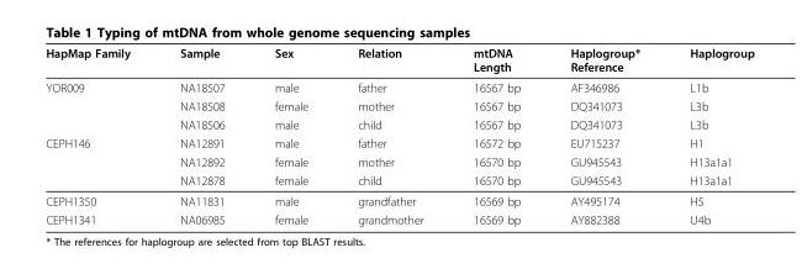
<table><thead><tr><td>HapMap Family</td><td>Sample</td><td>Sex</td><td>Relation</td><td>mtDNA Length</td><td>Haplogroup* Reference</td><td>Haplogroup</td></tr></thead><tbody><tr><td rowspan="3">YOR009</td><td>NA18507</td><td>male</td><td>father</td><td>16567 bp</td><td>AF346986</td><td>L1b</td></tr><tr><td>NA18508</td><td>female</td><td>mother</td><td>16567 bp</td><td>DQ341073</td><td>L3b</td></tr><tr><td>NA18506</td><td>male</td><td>child</td><td>16567 bp</td><td>DQ341073</td><td>L3b</td></tr><tr><td rowspan="3">CEPH146</td><td>NA12891</td><td>male</td><td>father</td><td>16572 bp</td><td>EU715237</td><td>H1</td></tr><tr><td>NA12892</td><td>female</td><td>mother</td><td>16570 bp</td><td>GU945543</td><td>H13a1a1</td></tr><tr><td>NA12878</td><td>female</td><td>child</td><td>16570 bp</td><td>GU945543</td><td>H13a1a1</td></tr><tr><td>CEPH1350</td><td>NA11831</td><td>male</td><td>grandfather</td><td>16569 bp</td><td>AY495174</td><td>H5</td></tr><tr><td>CEPH1341</td><td>NA06985</td><td>female</td><td>grandmother</td><td>16569 bp</td><td>AY882388</td><td>U4b</td></tr></tbody></table>